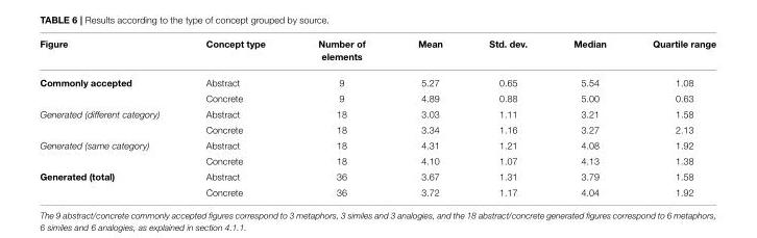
<table><thead><tr><td>Figure</td><td>Concept type</td><td>Number of elements</td><td>Mean</td><td>Std. dev.</td><td>Median</td><td>Quartile range</td></tr></thead><tbody><tr><td rowspan="2">Commonly accepted</td><td>Abstract</td><td>9</td><td>5.27</td><td>0.65</td><td>5.54</td><td>1.08</td></tr><tr><td>Concrete</td><td>9</td><td>4.89</td><td>0.88</td><td>5.00</td><td>0.63</td></tr><tr><td rowspan="2">Generated (different category)</td><td>Abstract</td><td>18</td><td>3.03</td><td>1.11</td><td>3.21</td><td>1.58</td></tr><tr><td>Concrete</td><td>18</td><td>3.34</td><td>1.16</td><td>3.27</td><td>2.13</td></tr><tr><td rowspan="2">Generated (same category)</td><td>Abstract</td><td>18</td><td>4.31</td><td>1.21</td><td>4.08</td><td>1.92</td></tr><tr><td>Concrete</td><td>18</td><td>4.10</td><td>1.07</td><td>4.13</td><td>1.38</td></tr><tr><td rowspan="2">Generated (total)</td><td>Abstract</td><td>36</td><td>3.67</td><td>1.31</td><td>3.79</td><td>1.58</td></tr><tr><td>Concrete</td><td>36</td><td>3.72</td><td>1.17</td><td>4.04</td><td>1.92</td></tr></tbody></table>